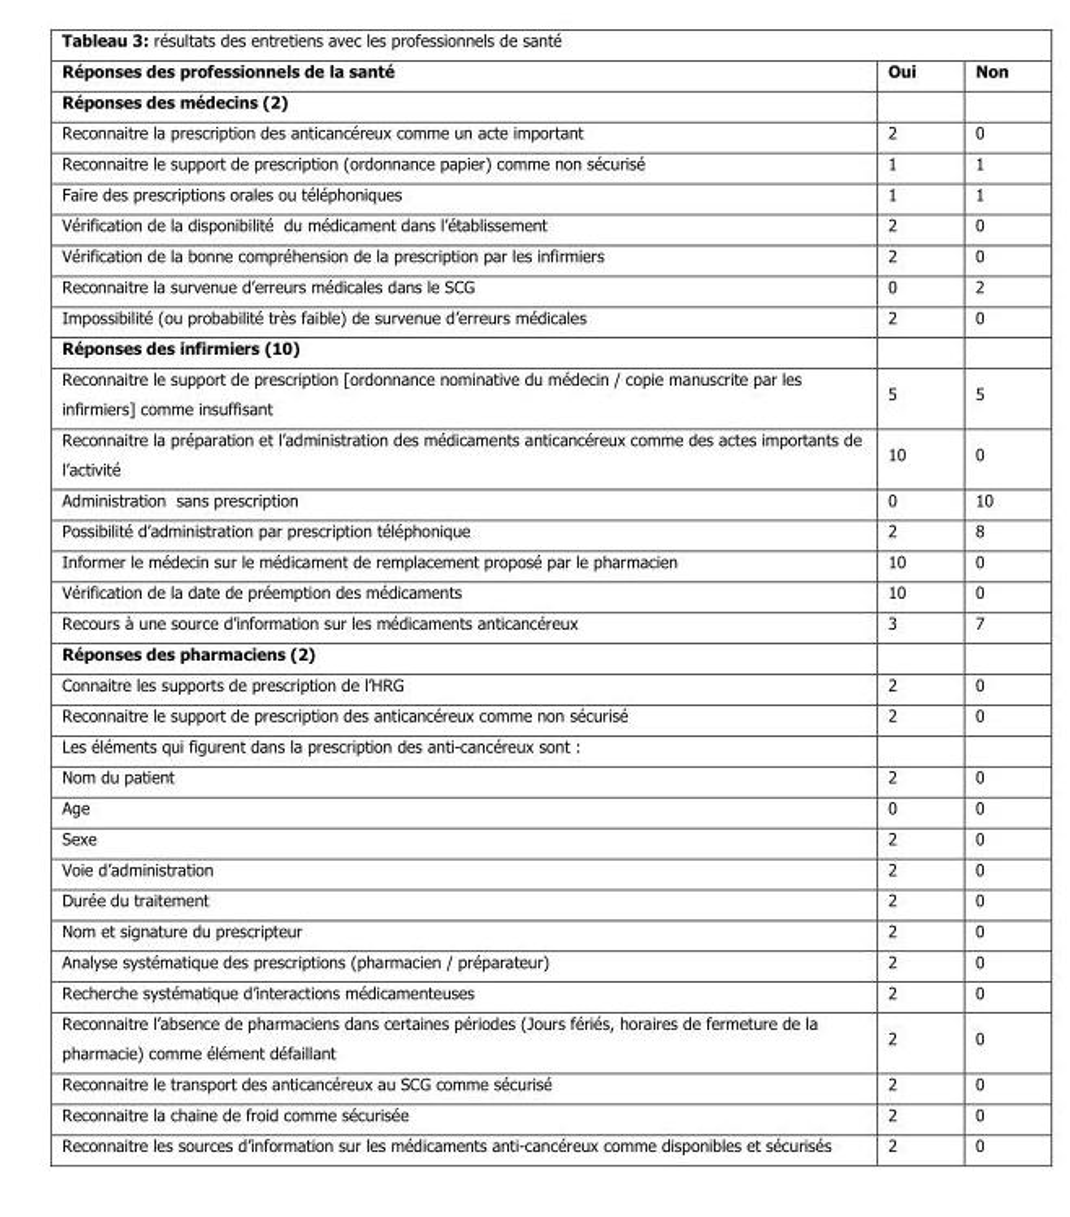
<table><thead><tr><td>Réponses des professionnels de la santé</td><td>Oui</td><td>Non</td></tr></thead><tbody><tr><td colspan="3">Réponses des médecins (2)</td></tr><tr><td>Reconnaitre la prescription des anticancéreux comme un acte important</td><td>2</td><td>0</td></tr><tr><td>Reconnaitre le support de prescription (ordonnance papier) comme non sécurisé</td><td>1</td><td>1</td></tr><tr><td>Faire des prescriptions orales ou téléphoniques</td><td>1</td><td>1</td></tr><tr><td>Vérification de la disponibilité du médicament dans l’établissement</td><td>2</td><td>0</td></tr><tr><td>Vérification de la bonne compréhension de la prescription par les infirmiers</td><td>2</td><td>0</td></tr><tr><td>Reconnaitre la survenue d’erreurs médicales dans le SCG</td><td>0</td><td>2</td></tr><tr><td>Impossibilité (ou probabilité très faible) de survenue d’erreurs médicales</td><td>2</td><td>0</td></tr><tr><td colspan="3">Réponses des infirmiers (10)</td></tr><tr><td>Reconnaitre le support de prescription [ordonnance nominative du médecin / copie manuscrite par les infirmiers] comme insuffisant</td><td>5</td><td>5</td></tr><tr><td>Reconnaitre la préparation et l’administration des médicaments anticancéreux comme des actes importants de l’activité</td><td>10</td><td>0</td></tr><tr><td>Administration sans prescription</td><td>0</td><td>10</td></tr><tr><td>Possibilité d’administration par prescription téléphonique</td><td>2</td><td>8</td></tr><tr><td>Informer le médecin sur le médicament de remplacement proposé par le pharmacien</td><td>10</td><td>0</td></tr><tr><td>Vérification de la date de préemption des médicaments</td><td>10</td><td>0</td></tr><tr><td>Recours à une source d’information sur les médicaments anticancéreux</td><td>3</td><td>7</td></tr><tr><td colspan="3">Réponses des pharmaciens (2)</td></tr><tr><td>Connaitre les supports de prescription de l’HRG</td><td>2</td><td>0</td></tr><tr><td>Reconnaitre le support de prescription des anticancéreux comme non sécurisé</td><td>2</td><td>0</td></tr><tr><td colspan="3">Les éléments qui figurent dans la prescription des anti-cancéreux sont :</td></tr><tr><td>Nom du patient</td><td>2</td><td>0</td></tr><tr><td>Age</td><td>0</td><td>0</td></tr><tr><td>Sexe</td><td>2</td><td>0</td></tr><tr><td>Voie d’administration</td><td>2</td><td>0</td></tr><tr><td>Durée du traitement</td><td>2</td><td>0</td></tr><tr><td>Nom et signature du prescripteur</td><td>2</td><td>0</td></tr><tr><td>Analyse systématique des prescriptions (pharmacien / préparateur)</td><td>2</td><td>0</td></tr><tr><td>Recherche systématique d’interactions médicamenteuses</td><td>2</td><td>0</td></tr><tr><td>Reconnaitre l’absence de pharmaciens dans certaines périodes (Jours fériés, horaires de fermeture de la pharmacie) comme élément défaillant</td><td>2</td><td>0</td></tr><tr><td>Reconnaitre le transport des anticancéreux au SCG comme sécurisé</td><td>2</td><td>0</td></tr><tr><td>Reconnaitre la chaine de froid comme sécurisée</td><td>2</td><td>0</td></tr><tr><td>Reconnaitre les sources d’information sur les médicaments anti-cancéreux comme disponibles et sécurisés</td><td>2</td><td>0</td></tr></tbody></table>